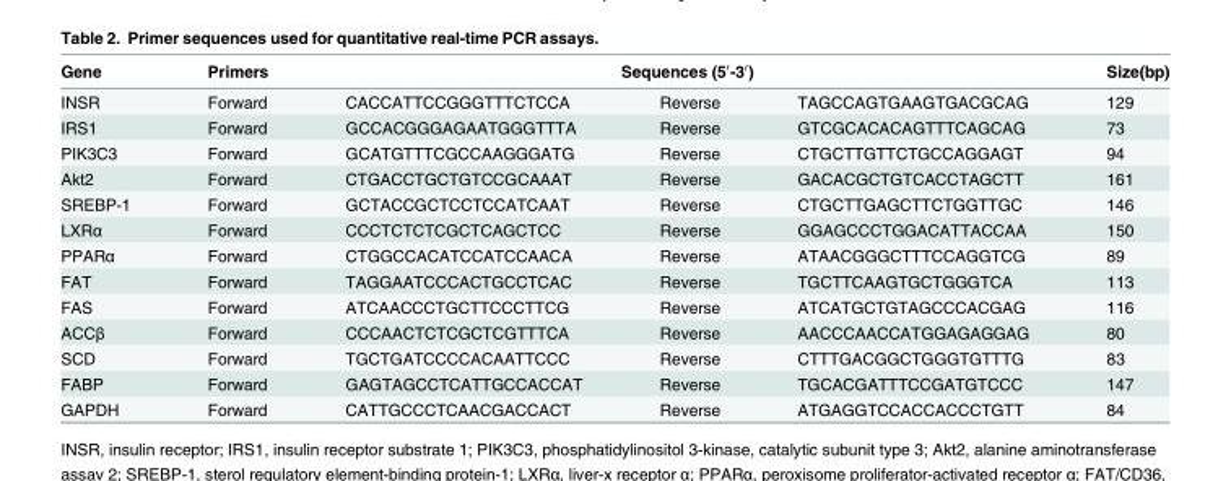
<table><thead><tr><td rowspan="2">Gene INSR</td><td rowspan="2">Primers Forward</td><td colspan="3">Sequences (5′-3′)</td><td rowspan="2">Size(bp) 129</td></tr><tr><td>CACCATTCCGGGTTTCTCCA</td><td>Reverse</td><td>TAGCCAGTGAAGTGACGCAG</td></tr></thead><tbody><tr><td>IRS1</td><td>Forward</td><td>GCCACGGGAGAATGGGTTTA</td><td>Reverse</td><td>GTCGCACACAGTTTCAGCAG</td><td>73</td></tr><tr><td>PIK3C3</td><td>Forward</td><td>GCATGTTTCGCCAAGGGATG</td><td>Reverse</td><td>CTGCTTGTTCTGCCAGGAGT</td><td>94</td></tr><tr><td>Akt2</td><td>Forward</td><td>CTGACCTGCTGTCCGCAAAT</td><td>Reverse</td><td>GACACGCTGTCACCTAGCTT</td><td>161</td></tr><tr><td>SREBP-1</td><td>Forward</td><td>GCTACCGCTCCTCCATCAAT</td><td>Reverse</td><td>CTGCTTGAGCTTCTGGTTGC</td><td>146</td></tr><tr><td>LXRα</td><td>Forward</td><td>CCCTCTCTCGCTCAGCTCC</td><td>Reverse</td><td>GGAGCCCTGGACATTACCAA</td><td>150</td></tr><tr><td>PPARα</td><td>Forward</td><td>CTGGCCACATCCATCCAACA</td><td>Reverse</td><td>ATAACGGGCTTTCCAGGTCG</td><td>89</td></tr><tr><td>FAT</td><td>Forward</td><td>TAGGAATCCCACTGCCTCAC</td><td>Reverse</td><td>TGCTTCAAGTGCTGGGTCA</td><td>113</td></tr><tr><td>FAS</td><td>Forward</td><td>ATCAACCCTGCTTCCCTTCG</td><td>Reverse</td><td>ATCATGCTGTAGCCCACGAG</td><td>116</td></tr><tr><td>ACCβ</td><td>Forward</td><td>CCCAACTCTCGCTCGTTTCA</td><td>Reverse</td><td>AACCCAACCATGGAGAGGAG</td><td>80</td></tr><tr><td>SCD</td><td>Forward</td><td>TGCTGATCCCCACAATTCCC</td><td>Reverse</td><td>CTTTGACGGCTGGGTGTTTG</td><td>83</td></tr><tr><td>FABP</td><td>Forward</td><td>GAGTAGCCTCATTGCCACCAT</td><td>Reverse</td><td>TGCACGATTTCCGATGTCCC</td><td>147</td></tr><tr><td>GAPDH</td><td>Forward</td><td>CATTGCCCTCAACGACCACT</td><td>Reverse</td><td>ATGAGGTCCACCACCCTGTT</td><td>84</td></tr></tbody></table>